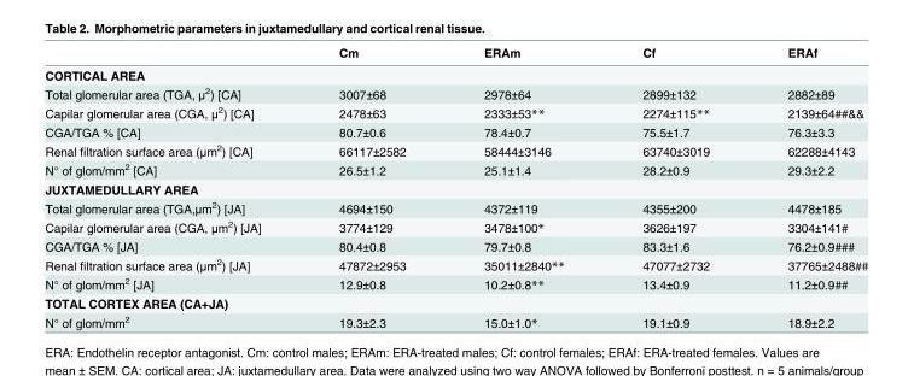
<table><thead><tr><td></td><td>Cm</td><td>ERAm</td><td>Cf</td><td>ERAf</td></tr></thead><tbody><tr><td colspan="5">CORTICAL AREA</td></tr><tr><td>Total glomerular area (TGA, μ<sup>2</sup>) [CA]</td><td>3007±68</td><td>2978±64</td><td>2899±132</td><td>2882±89</td></tr><tr><td>Capilar glomerular area (CGA, μ<sup>2</sup>) [CA]</td><td>2478±63</td><td>2333±53**</td><td>2274±115**</td><td>2139±64##&amp;&amp;</td></tr><tr><td>CGA/TGA % [CA]</td><td>80.7±0.6</td><td>78.4±0.7</td><td>75.5±1.7</td><td>76.3±3.3</td></tr><tr><td>Renal filtration surface area (μm<sup>2</sup>) [CA]</td><td>66117±2582</td><td>58444±3146</td><td>63740±3019</td><td>62288±4143</td></tr><tr><td>N° of glom/mm<sup>2</sup> [CA]</td><td>26.5±1.2</td><td>25.1±1.4</td><td>28.2±0.9</td><td>29.3±2.2</td></tr><tr><td colspan="5">JUXTAMEDULLARY AREA</td></tr><tr><td>Total glomerular area (TGA,μm<sup>2</sup>) [JA]</td><td>4694±150</td><td>4372±119</td><td>4355±200</td><td>4478±185</td></tr><tr><td>Capilar glomerular area (CGA, μm<sup>2</sup>) [JA]</td><td>3774±129</td><td>3478±100*</td><td>3626±197</td><td>3304±141#</td></tr><tr><td>CGA/TGA % [JA]</td><td>80.4±0.8</td><td>79.7±0.8</td><td>83.3±1.6</td><td>76.2±0.9###</td></tr><tr><td>Renal filtration surface area (μm<sup>2</sup>) [JA]</td><td>47872±2953</td><td>35011±2840**</td><td>47077±2732</td><td>37765±2488##</td></tr><tr><td>N° of glom/mm<sup>2</sup> [JA]</td><td>12.9±0.8</td><td>10.2±0.8**</td><td>13.4±0.9</td><td>11.2±0.9##</td></tr><tr><td colspan="5">TOTAL CORTEX AREA (CA+JA)</td></tr><tr><td>N° of glom/mm<sup>2</sup></td><td>19.3±2.3</td><td>15.0±1.0*</td><td>19.1±0.9</td><td>18.9±2.2</td></tr></tbody></table>